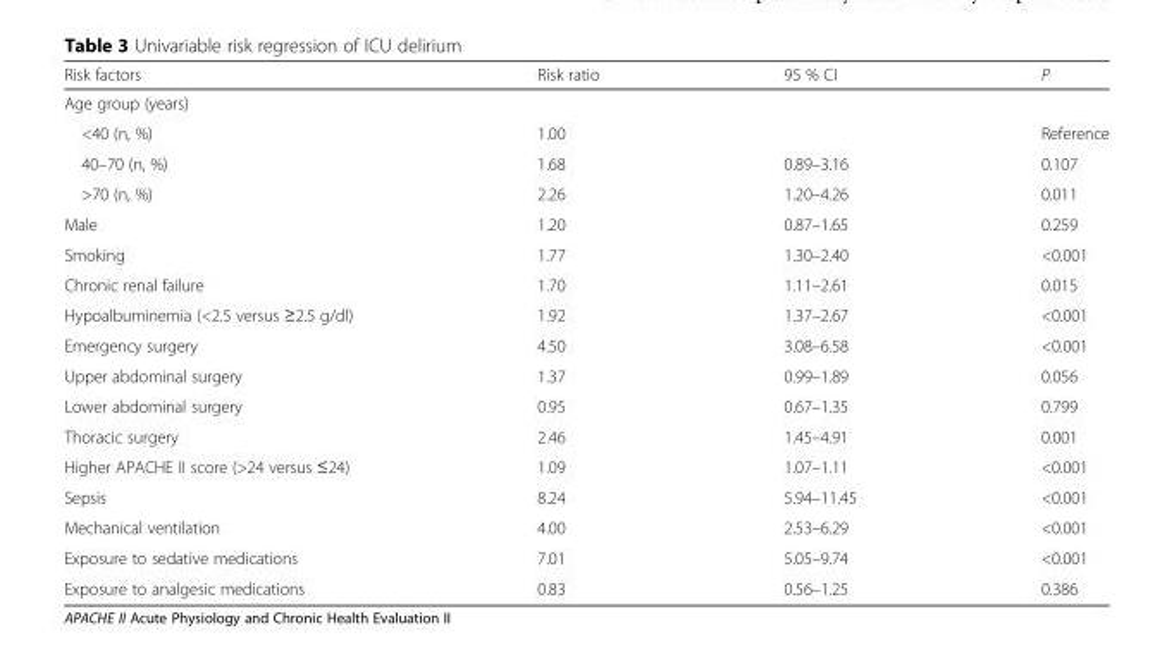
<table><thead><tr><td>Risk factors</td><td>Risk ratio</td><td>95 % CI</td><td>P</td></tr></thead><tbody><tr><td colspan="4">Age group (years)</td></tr><tr><td>&lt;40 (n, %)</td><td>1.00</td><td></td><td>Reference</td></tr><tr><td>40–70 (n, %)</td><td>1.68</td><td>0.89–3.16</td><td>0.107</td></tr><tr><td>&gt;70 (n, %)</td><td>2.26</td><td>1.20–4.26</td><td>0.011</td></tr><tr><td>Male</td><td>1.20</td><td>0.87–1.65</td><td>0.259</td></tr><tr><td>Smoking</td><td>1.77</td><td>1.30–2.40</td><td>&lt;0.001</td></tr><tr><td>Chronic renal failure</td><td>1.70</td><td>1.11–2.61</td><td>0.015</td></tr><tr><td>Hypoalbuminemia (&lt;2.5 versus ≥2.5 g/dl)</td><td>1.92</td><td>1.37–2.67</td><td>&lt;0.001</td></tr><tr><td>Emergency surgery</td><td>4.50</td><td>3.08–6.58</td><td>&lt;0.001</td></tr><tr><td>Upper abdominal surgery</td><td>1.37</td><td>0.99–1.89</td><td>0.056</td></tr><tr><td>Lower abdominal surgery</td><td>0.95</td><td>0.67–1.35</td><td>0.799</td></tr><tr><td>Thoracic surgery</td><td>2.46</td><td>1.45–4.91</td><td>0.001</td></tr><tr><td>Higher APACHE II score (&gt;24 versus ≤24)</td><td>1.09</td><td>1.07–1.11</td><td>&lt;0.001</td></tr><tr><td>Sepsis</td><td>8.24</td><td>5.94–11.45</td><td>&lt;0.001</td></tr><tr><td>Mechanical ventilation</td><td>4.00</td><td>2.53–6.29</td><td>&lt;0.001</td></tr><tr><td>Exposure to sedative medications</td><td>7.01</td><td>5.05–9.74</td><td>&lt;0.001</td></tr><tr><td>Exposure to analgesic medications</td><td>0.83</td><td>0.56–1.25</td><td>0.386</td></tr></tbody></table>